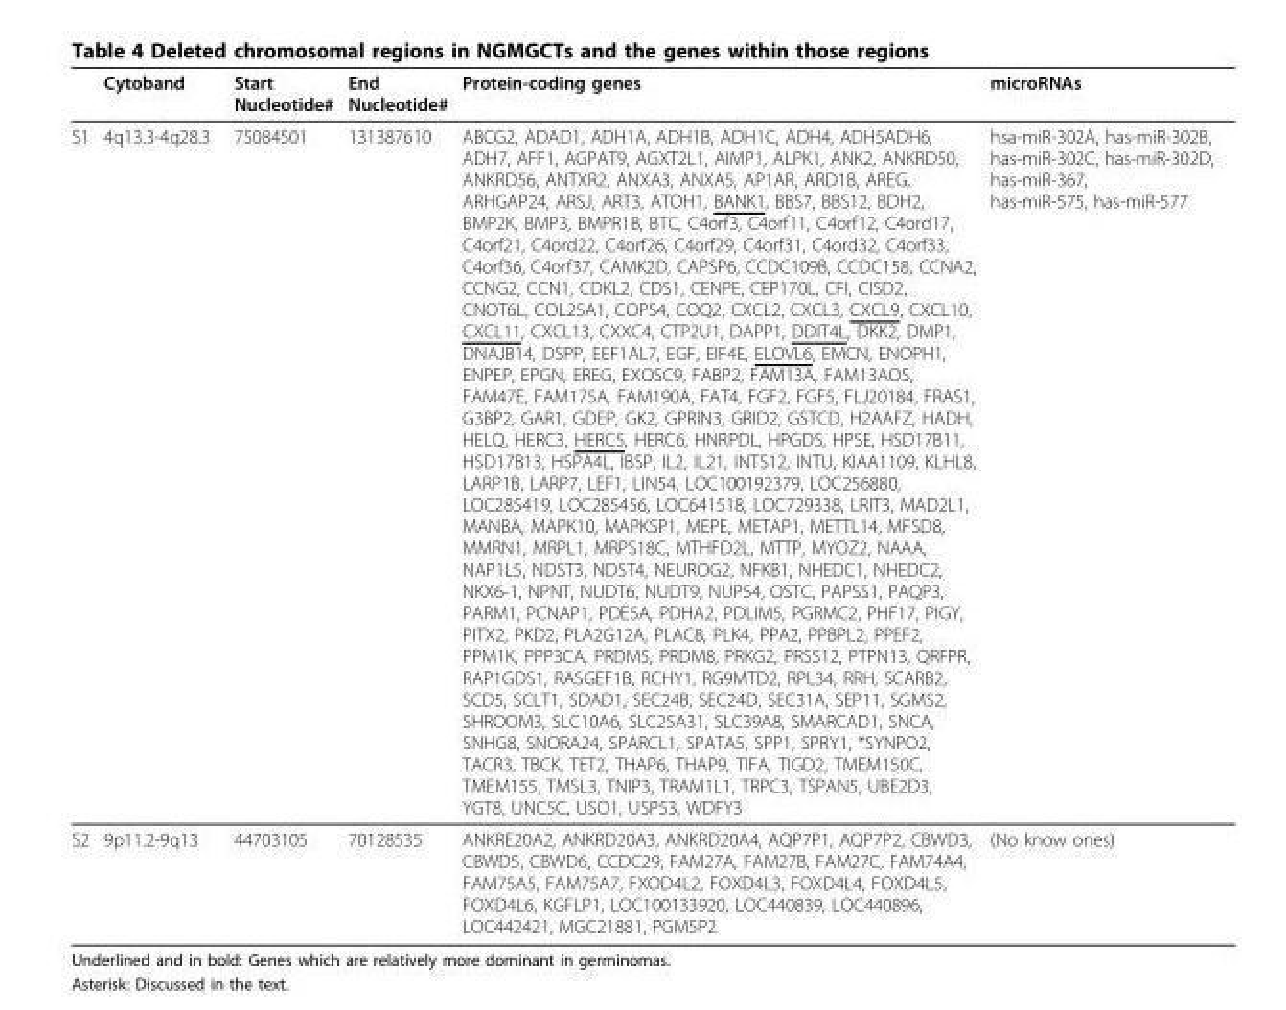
<table><thead><tr><td></td><td>Cytoband</td><td>Start Nucleotide#</td><td>End Nucleotide#</td><td>Protein-coding genes</td><td>microRNAs</td></tr></thead><tbody><tr><td>S1</td><td>4q13.3-4q28.3</td><td>75084501</td><td>131387610</td><td>ABCG2, ADAD1, ADH1A, ADH1B, ADH1C, ADH4, ADH5ADH6, ADH7, AFF1, AGPAT9, AGXT2L1, AIMP1, ALPK1, ANK2, ANKRD50, ANKRD56, ANTXR2, ANXA3, ANXA5, AP1AR, ARD1B, AREG, ARHGAP24, ARSJ, ART3, ATOH1, BANK1, BBS7, BBS12, BDH2, BMP2K, BMP3, BMPR1B, BTC, C4orf3, C4orf11, C4orf12, C4ord17, C4orf21, C4ord22, C4orf26, C4orf29, C4orf31, C4ord32, C4orf33, C4orf36, C4orf37, CAMK2D, CAPSP6, CCDC109B, CCDC158, CCNA2, CCNG2, CCN1, CDKL2, CDS1, CENPE, CEP170L, CFI, CISD2, CNOT6L, COL25A1, COPS4, COQ2, CXCL2, CXCL3, CXCL9, CXCL10, CXCL11, CXCL13, CXXC4, CTP2U1, DAPP1, DDIT4L, DKK2, DMP1, DNAJB14, DSPP, EEF1AL7, EGF, EIF4E, ELOVL6, EMCN, ENOPH1, ENPEP, EPGN, EREG, EXOSC9, FABP2, FAM13A, FAM13AOS, FAM47E, FAM175A, FAM190A, FAT4, FGF2, FGF5, FLJ20184, FRAS1, G3BP2, GAR1, GDEP, GK2, GPRIN3, GRID2, GSTCD, H2AAFZ, HADH, HELQ, HERC3, HERC5, HERC6, HNRPDL, HPGDS, HPSE, HSD17B11, HSD17B13, HSPA4L, IBSP, IL2, IL21, INTS12, INTU, KIAA1109, KLHL8, LARP1B, LARP7, LEF1, LIN54, LOC100192379, LOC256880, LOC285419, LOC285456, LOC641518, LOC729338, LRIT3, MAD2L1, MANBA, MAPK10, MAPKSP1, MEPE, METAP1, METTL14, MFSD8, MMRN1, MRPL1, MRPS18C, MTHFD2L, MTTP, MYOZ2, NAAA, NAP1L5, NDST3, NDST4, NEUROG2, NFKB1, NHEDC1, NHEDC2, NKX6-1, NPNT, NUDT6, NUDT9, NUP54, OSTC, PAPSS1, PAQP3, PARM1, PCNAP1, PDE5A, PDHA2, PDLIM5, PGRMC2, PHF17, PIGY, PITX2, PKD2, PLA2G12A, PLAC8, PLK4, PPA2, PPBPL2, PPEF2, PPM1K, PPP3CA, PRDM5, PRDM8, PRKG2, PRSS12, PTPN13, QRFPR, RAP1GDS1, RASGEF1B, RCHY1, RG9MTD2, RPL34, RRH, SCARB2, SCD5, SCLT1, SDAD1, SEC24B, SEC24D, SEC31A, SEP11, SGMS2, SHROOM3, SLC10A6, SLC25A31, SLC39A8, SMARCAD1, SNCA, SNHG8, SNORA24, SPARCL1, SPATA5, SPP1, SPRY1, *SYNPO2, TACR3, TBCK, TET2, THAP6, THAP9, TIFA, TIGD2, TMEM150C, TMEM155, TMSL3, TNIP3, TRAM1L1, TRPC3, TSPAN5, UBE2D3, YGT8, UNC5C, USO1, USP53, WDFY3</td><td>hsa-miR-302A, has-miR-302B, has-miR-302C, has-miR-302D, has-miR-367, has-miR-575, has-miR-577</td></tr><tr><td>S2</td><td>9p11.2-9q13</td><td>44703105</td><td>70128535</td><td>ANKRE20A2, ANKRD20A3, ANKRD20A4, AQP7P1, AQP7P2, CBWD3, CBWD5, CBWD6, CCDC29, FAM27A, FAM27B, FAM27C, FAM74A4, FAM75A5, FAM75A7, FXOD4L2, FOXD4L3, FOXD4L4, FOXD4L5, FOXD4L6, KGFLP1, LOC100133920, LOC440839, LOC440896, LOC442421, MGC21881, PGM5P2</td><td>(No know ones)</td></tr></tbody></table>